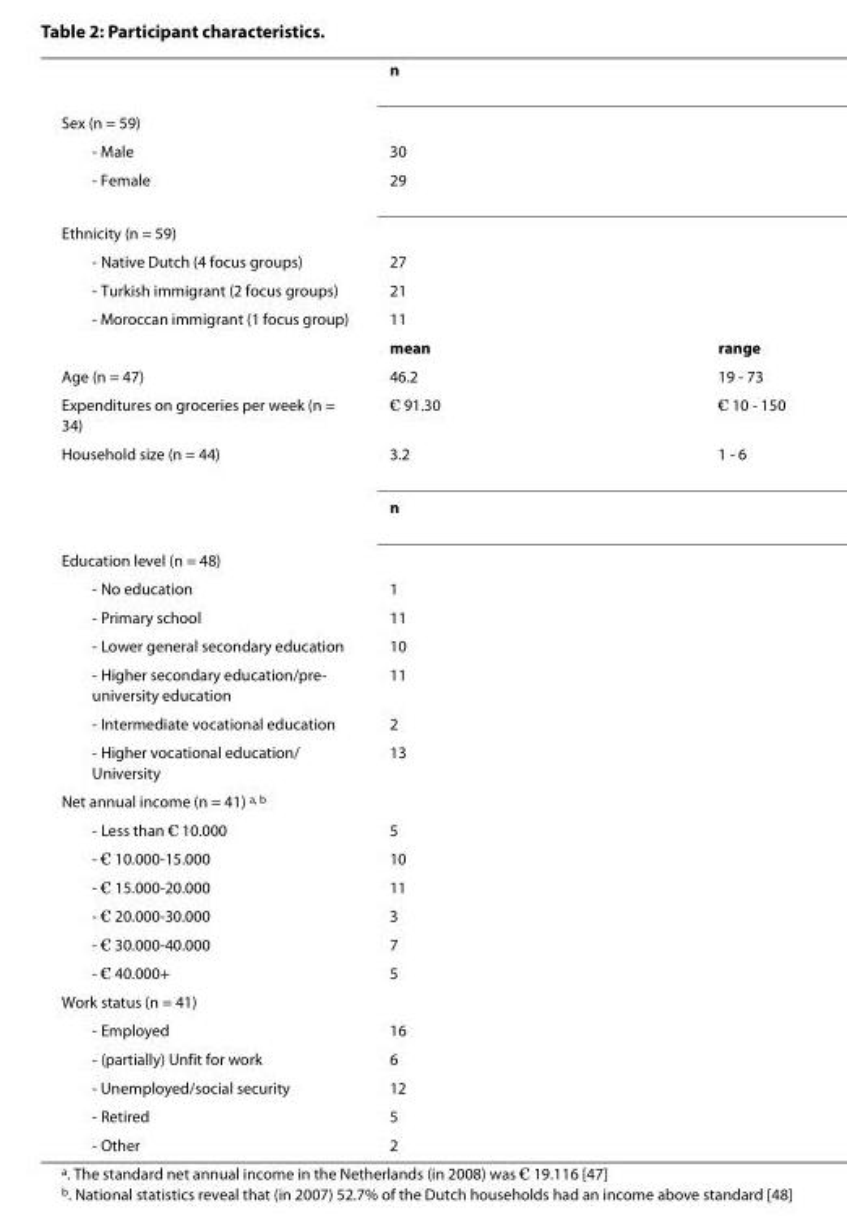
<table><thead><tr><td></td><td>n</td><td></td></tr></thead><tbody><tr><td colspan="3">Sex (n = 59)</td></tr><tr><td>- Male</td><td>30</td><td></td></tr><tr><td>- Female</td><td>29</td><td></td></tr><tr><td colspan="3">Ethnicity (n = 59)</td></tr><tr><td>- Native Dutch (4 focus groups)</td><td>27</td><td></td></tr><tr><td>- Turkish immigrant (2 focus groups)</td><td>21</td><td></td></tr><tr><td rowspan="2">- Moroccan immigrant (1 focus group)</td><td>11</td><td></td></tr><tr><td>mean</td><td>range</td></tr><tr><td>Age (n = 47)</td><td>46.2</td><td>19 - 73</td></tr><tr><td>Expenditures on groceries per week (n = 34)</td><td>€ 91.30</td><td>€ 10 - 150</td></tr><tr><td rowspan="2">Household size (n = 44)</td><td>3.2</td><td>1 - 6</td></tr><tr><td>n</td><td></td></tr><tr><td colspan="3">Education level (n = 48)</td></tr><tr><td>- No education</td><td>1</td><td></td></tr><tr><td>- Primary school</td><td>11</td><td></td></tr><tr><td>- Lower general secondary education</td><td>10</td><td></td></tr><tr><td>- Higher secondary education/pre- university education</td><td>11</td><td></td></tr><tr><td>- Intermediate vocational education</td><td>2</td><td></td></tr><tr><td>- Higher vocational education/ University</td><td>13</td><td></td></tr><tr><td colspan="3">Net annual income (n = 41) <sup>a, b</sup></td></tr><tr><td>- Less than € 10.000</td><td>5</td><td></td></tr><tr><td>- € 10.000-15.000</td><td>10</td><td></td></tr><tr><td>- € 15.000-20.000</td><td>11</td><td></td></tr><tr><td>- € 20.000-30.000</td><td>3</td><td></td></tr><tr><td>- € 30.000-40.000</td><td>7</td><td></td></tr><tr><td>- € 40.000+</td><td>5</td><td></td></tr><tr><td colspan="3">Work status (n = 41)</td></tr><tr><td>- Employed</td><td>16</td><td></td></tr><tr><td>- (partially) Unfit for work</td><td>6</td><td></td></tr><tr><td>- Unemployed/social security</td><td>12</td><td></td></tr><tr><td>- Retired</td><td>5</td><td></td></tr><tr><td>- Other</td><td>2</td><td></td></tr></tbody></table>